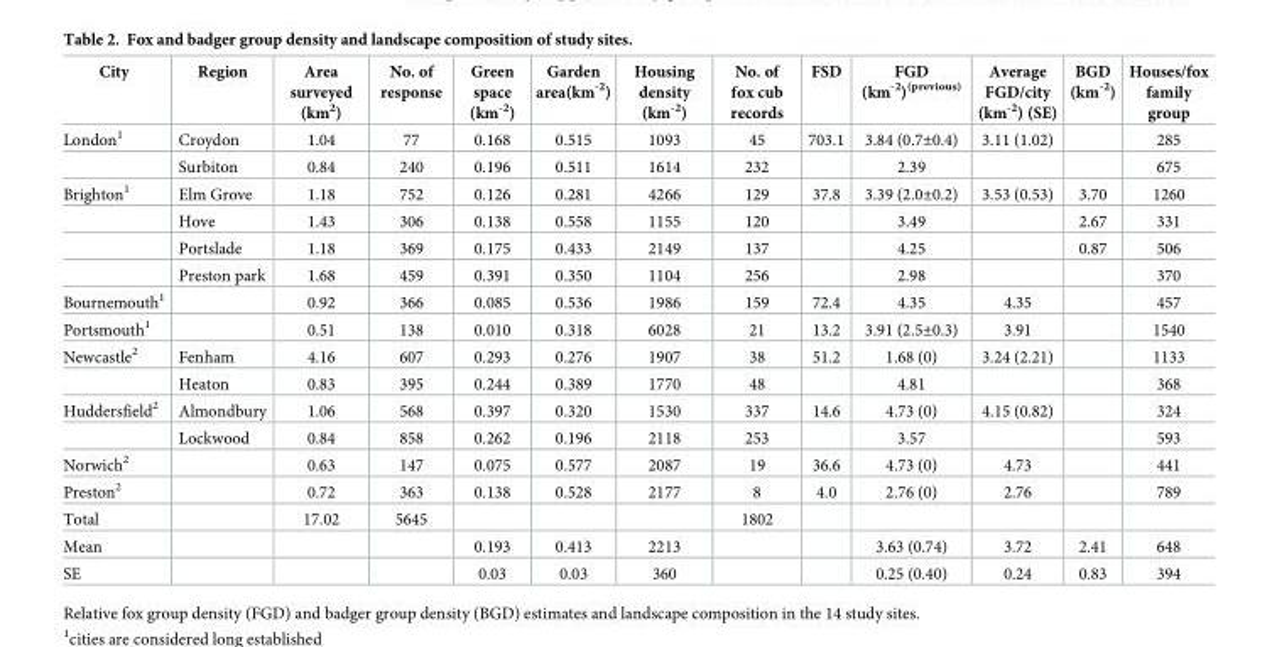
<table><thead><tr><td>City</td><td>Region</td><td>Area surveyed (km<sup>2</sup>)</td><td>No. of response</td><td>Green space (km<sup>-2</sup>)</td><td>Garden area(km<sup>-2</sup>)</td><td>Housing density (km<sup>-2</sup>)</td><td>No. of fox cub records</td><td>FSD</td><td>FGD (km<sup>-2</sup>)<sup>(previous)</sup></td><td>Average FGD/city (km<sup>-2</sup>) (SE)</td><td>BGD (km<sup>-2</sup>)</td><td>Houses/fox family group</td></tr></thead><tbody><tr><td rowspan="2">London<sup>1</sup></td><td>Croydon</td><td>1.04</td><td>77</td><td>0.168</td><td>0.515</td><td>1093</td><td>45</td><td>703.1</td><td>3.84 (0.7±0.4)</td><td>3.11 (1.02)</td><td></td><td>285</td></tr><tr><td>Surbiton</td><td>0.84</td><td>240</td><td>0.196</td><td>0.511</td><td>1614</td><td>232</td><td></td><td>2.39</td><td></td><td></td><td>675</td></tr><tr><td rowspan="4">Brighton<sup>1</sup></td><td>Elm Grove</td><td>1.18</td><td>752</td><td>0.126</td><td>0.281</td><td>4266</td><td>129</td><td>37.8</td><td>3.39 (2.0±0.2)</td><td>3.53 (0.53)</td><td>3.70</td><td>1260</td></tr><tr><td>Hove</td><td>1.43</td><td>306</td><td>0.138</td><td>0.558</td><td>1155</td><td>120</td><td></td><td>3.49</td><td></td><td>2.67</td><td>331</td></tr><tr><td>Portslade</td><td>1.18</td><td>369</td><td>0.175</td><td>0.433</td><td>2149</td><td>137</td><td></td><td>4.25</td><td></td><td>0.87</td><td>506</td></tr><tr><td>Preston park</td><td>1.68</td><td>459</td><td>0.391</td><td>0.350</td><td>1104</td><td>256</td><td></td><td>2.98</td><td></td><td></td><td>370</td></tr><tr><td>Bournemouth<sup>1</sup></td><td></td><td>0.92</td><td>366</td><td>0.085</td><td>0.536</td><td>1986</td><td>159</td><td>72.4</td><td>4.35</td><td>4.35</td><td></td><td>457</td></tr><tr><td>Portsmouth<sup>1</sup></td><td></td><td>0.51</td><td>138</td><td>0.010</td><td>0.318</td><td>6028</td><td>21</td><td>13.2</td><td>3.91 (2.5±0.3)</td><td>3.91</td><td></td><td>1540</td></tr><tr><td rowspan="2">Newcastle<sup>2</sup></td><td>Fenham</td><td>4.16</td><td>607</td><td>0.293</td><td>0.276</td><td>1907</td><td>38</td><td>51.2</td><td>1.68 (0)</td><td>3.24 (2.21)</td><td></td><td>1133</td></tr><tr><td>Heaton</td><td>0.83</td><td>395</td><td>0.244</td><td>0.389</td><td>1770</td><td>48</td><td></td><td>4.81</td><td></td><td></td><td>368</td></tr><tr><td rowspan="2">Huddersfield<sup>2</sup></td><td>Almondbury</td><td>1.06</td><td>568</td><td>0.397</td><td>0.320</td><td>1530</td><td>337</td><td>14.6</td><td>4.73 (0)</td><td>4.15 (0.82)</td><td></td><td>324</td></tr><tr><td>Lockwood</td><td>0.84</td><td>858</td><td>0.262</td><td>0.196</td><td>2118</td><td>253</td><td></td><td>3.57</td><td></td><td></td><td>593</td></tr><tr><td>Norwich<sup>2</sup></td><td></td><td>0.63</td><td>147</td><td>0.075</td><td>0.577</td><td>2087</td><td>19</td><td>36.6</td><td>4.73 (0)</td><td>4.73</td><td></td><td>441</td></tr><tr><td>Preston<sup>2</sup></td><td></td><td>0.72</td><td>363</td><td>0.138</td><td>0.528</td><td>2177</td><td>8</td><td>4.0</td><td>2.76 (0)</td><td>2.76</td><td></td><td>789</td></tr><tr><td>Total</td><td></td><td>17.02</td><td>5645</td><td></td><td></td><td></td><td>1802</td><td></td><td></td><td></td><td></td><td></td></tr><tr><td>Mean</td><td></td><td></td><td></td><td>0.193</td><td>0.413</td><td>2213</td><td></td><td></td><td>3.63 (0.74)</td><td>3.72</td><td>2.41</td><td>648</td></tr><tr><td>SE</td><td></td><td></td><td></td><td>0.03</td><td>0.03</td><td>360</td><td></td><td></td><td>0.25 (0.40)</td><td>0.24</td><td>0.83</td><td>394</td></tr></tbody></table>